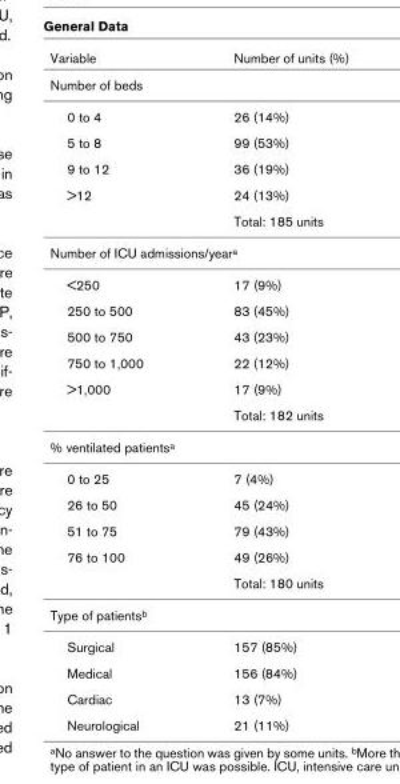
<table><thead><tr><td>Variable</td><td>Number of units (%)</td></tr></thead><tbody><tr><td colspan="2">Number of beds</td></tr><tr><td>0 to 4</td><td>26 (14%)</td></tr><tr><td>5 to 8</td><td>99 (53%)</td></tr><tr><td>9 to 12</td><td>36 (19%)</td></tr><tr><td rowspan="2">&gt;12</td><td>24 (13%)</td></tr><tr><td>Total: 185 units</td></tr><tr><td colspan="2">Number of ICU admissions/year<sup>a</sup></td></tr><tr><td>&lt;250</td><td>17 (9%)</td></tr><tr><td>250 to 500</td><td>83 (45%)</td></tr><tr><td>500 to 750</td><td>43 (23%)</td></tr><tr><td>750 to 1,000</td><td>22 (12%)</td></tr><tr><td rowspan="2">&gt;1,000</td><td>17 (9%)</td></tr><tr><td>Total: 182 units</td></tr><tr><td colspan="2">% ventilated patients<sup>a</sup></td></tr><tr><td>0 to 25</td><td>7 (4%)</td></tr><tr><td>26 to 50</td><td>45 (24%)</td></tr><tr><td>51 to 75</td><td>79 (43%)</td></tr><tr><td rowspan="2">76 to 100</td><td>49 (26%)</td></tr><tr><td>Total: 180 units</td></tr><tr><td colspan="2">Type of patients<sup>b</sup></td></tr><tr><td>Surgical</td><td>157 (85%)</td></tr><tr><td>Medical</td><td>156 (84%)</td></tr><tr><td>Cardiac</td><td>13 (7%)</td></tr><tr><td>Neurological</td><td>21 (11%)</td></tr></tbody></table>